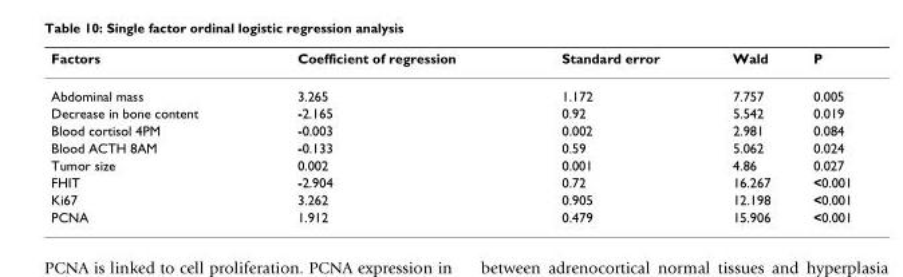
<table><thead><tr><td>Factors</td><td>Coefficient of regression</td><td>Standard error</td><td>Wald</td><td>P</td></tr></thead><tbody><tr><td>Abdominal mass</td><td>3.265</td><td>1.172</td><td>7.757</td><td>0.005</td></tr><tr><td>Decrease in bone content</td><td>-2.165</td><td>0.92</td><td>5.542</td><td>0.019</td></tr><tr><td>Blood cortisol 4PM</td><td>-0.003</td><td>0.002</td><td>2.981</td><td>0.084</td></tr><tr><td>Blood ACTH 8AM</td><td>-0.133</td><td>0.59</td><td>5.062</td><td>0.024</td></tr><tr><td>Tumor size</td><td>0.002</td><td>0.001</td><td>4.86</td><td>0.027</td></tr><tr><td>FHIT</td><td>-2.904</td><td>0.72</td><td>16.267</td><td>&lt;0.001</td></tr><tr><td>Ki67</td><td>3.262</td><td>0.905</td><td>12.198</td><td>&lt;0.001</td></tr><tr><td>PCNA</td><td>1.912</td><td>0.479</td><td>15.906</td><td>&lt;0.001</td></tr></tbody></table>